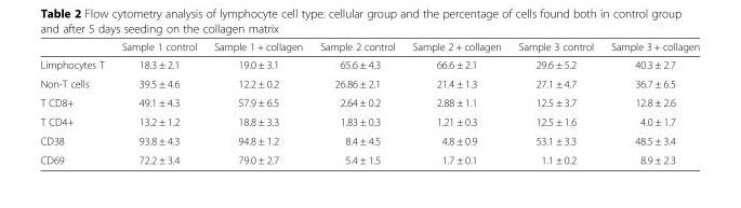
<table><thead><tr><td></td><td>Sample 1 control</td><td>Sample 1 + collagen</td><td>Sample 2 control</td><td>Sample 2 + collagen</td><td>Sample 3 control</td><td>Sample 3 + collagen</td></tr></thead><tbody><tr><td>Limphocytes T</td><td>18.3 ± 2.1</td><td>19.0 ± 3.1</td><td>65.6 ± 4.3</td><td>66.6 ± 2.1</td><td>29.6 ± 5.2</td><td>40.3 ± 2.7</td></tr><tr><td>Non-T cells</td><td>39.5 ± 4.6</td><td>12.2 ± 0.2</td><td>26.86 ± 2.1</td><td>21.4 ± 1.3</td><td>27.1 ± 4.7</td><td>36.7 ± 6.5</td></tr><tr><td>T CD8+</td><td>49.1 ± 4.3</td><td>57.9 ± 6.5</td><td>2.64 ± 0.2</td><td>2.88 ± 1.1</td><td>12.5 ± 3.7</td><td>12.8 ± 2.6</td></tr><tr><td>T CD4+</td><td>13.2 ± 1.2</td><td>18.8 ± 3.3</td><td>1.83 ± 0.3</td><td>1.21 ± 0.3</td><td>12.5 ± 1.6</td><td>4.0 ± 1.7</td></tr><tr><td>CD38</td><td>93.8 ± 4.3</td><td>94.8 ± 1.2</td><td>8.4 ± 4.5</td><td>4.8 ± 0.9</td><td>53.1 ± 3.3</td><td>48.5 ± 3.4</td></tr><tr><td>CD69</td><td>72.2 ± 3.4</td><td>79.0 ± 2.7</td><td>5.4 ± 1.5</td><td>1.7 ± 0.1</td><td>1.1 ± 0.2</td><td>8.9 ± 2.3</td></tr></tbody></table>